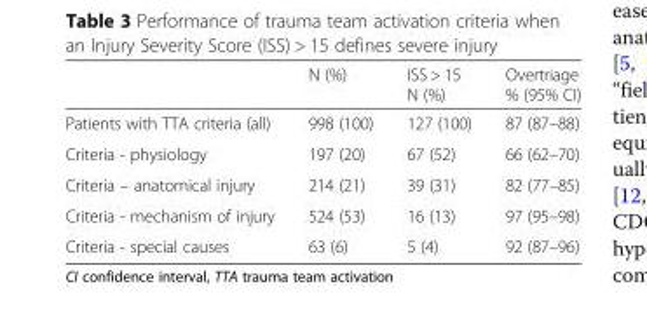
<table><thead><tr><td></td><td>N (%)</td><td>ISS &gt; 15 N (%)</td><td>Overtriage % (95% CI)</td></tr></thead><tbody><tr><td>Patients with TTA criteria (all)</td><td>998 (100)</td><td>127 (100)</td><td>87 (87–88)</td></tr><tr><td>Criteria - physiology</td><td>197 (20)</td><td>67 (52)</td><td>66 (62–70)</td></tr><tr><td>Criteria – anatomical injury</td><td>214 (21)</td><td>39 (31)</td><td>82 (77–85)</td></tr><tr><td>Criteria - mechanism of injury</td><td>524 (53)</td><td>16 (13)</td><td>97 (95–98)</td></tr><tr><td>Criteria - special causes</td><td>63 (6)</td><td>5 (4)</td><td>92 (87–96)</td></tr></tbody></table>